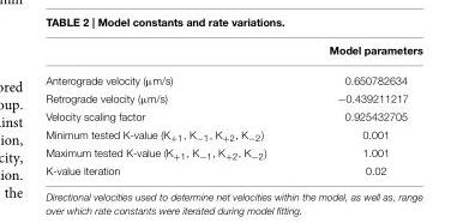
<table><thead><tr><td></td><td>Model parameters</td></tr></thead><tbody><tr><td>Anterograde velocity (µm/s)</td><td>0.650782634</td></tr><tr><td>Retrograde velocity (µm/s)</td><td>−0.439211217</td></tr><tr><td>Velocity scaling factor</td><td>0.925432705</td></tr><tr><td>Minimum tested K-value (K<sub>+1</sub>, K<sub>−1</sub>, K<sub>+2</sub>, K<sub>−2</sub>)</td><td>0.001</td></tr><tr><td>Maximum tested K-value (K<sub>+1</sub>, K<sub>−1</sub>, K<sub>+2</sub>, K<sub>−2</sub>)</td><td>1.001</td></tr><tr><td>K-value iteration</td><td>0.02</td></tr></tbody></table>